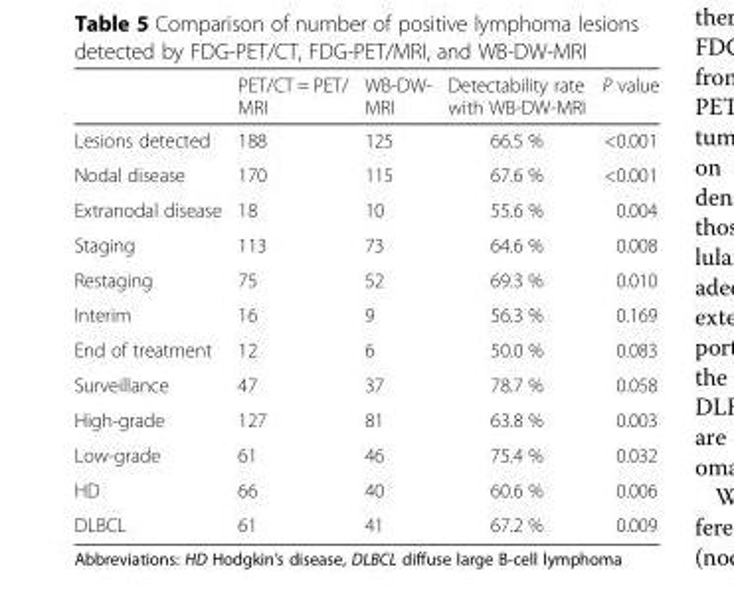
<table><thead><tr><td></td><td>PET/CT = PET/ MRI</td><td>WB-DW- MRI</td><td>Detectability rate with WB-DW-MRI</td><td>P value</td></tr></thead><tbody><tr><td>Lesions detected</td><td>188</td><td>125</td><td>66.5 %</td><td>&lt;0.001</td></tr><tr><td>Nodal disease</td><td>170</td><td>115</td><td>67.6 %</td><td>&lt;0.001</td></tr><tr><td>Extranodal disease</td><td>18</td><td>10</td><td>55.6 %</td><td>0.004</td></tr><tr><td>Staging</td><td>113</td><td>73</td><td>64.6 %</td><td>0.008</td></tr><tr><td>Restaging</td><td>75</td><td>52</td><td>69.3 %</td><td>0.010</td></tr><tr><td>Interim</td><td>16</td><td>9</td><td>56.3 %</td><td>0.169</td></tr><tr><td>End of treatment</td><td>12</td><td>6</td><td>50.0 %</td><td>0.083</td></tr><tr><td>Surveillance</td><td>47</td><td>37</td><td>78.7 %</td><td>0.058</td></tr><tr><td>High-grade</td><td>127</td><td>81</td><td>63.8 %</td><td>0.003</td></tr><tr><td>Low-grade</td><td>61</td><td>46</td><td>75.4 %</td><td>0.032</td></tr><tr><td>HD</td><td>66</td><td>40</td><td>60.6 %</td><td>0.006</td></tr><tr><td>DLBCL</td><td>61</td><td>41</td><td>67.2 %</td><td>0.009</td></tr></tbody></table>